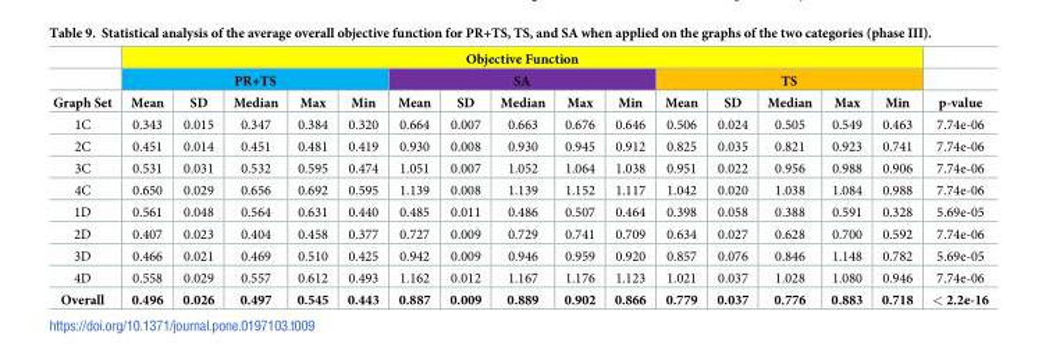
<table><thead><tr><td rowspan="3">Graph Set</td><td colspan="15">Objective Function</td><td rowspan="3">p-value</td></tr><tr><td colspan="5">PR+TS</td><td colspan="5">SA</td><td colspan="5">TS</td></tr><tr><td>Mean</td><td>SD</td><td>Median</td><td>Max</td><td>Min</td><td>Mean</td><td>SD</td><td>Median</td><td>Max</td><td>Min</td><td>Mean</td><td>SD</td><td>Median</td><td>Max</td><td>Min</td></tr></thead><tbody><tr><td>1C</td><td>0.343</td><td>0.015</td><td>0.347</td><td>0.384</td><td>0.320</td><td>0.664</td><td>0.007</td><td>0.663</td><td>0.676</td><td>0.646</td><td>0.506</td><td>0.024</td><td>0.505</td><td>0.549</td><td>0.463</td><td>7.74e-06</td></tr><tr><td>2C</td><td>0.451</td><td>0.014</td><td>0.451</td><td>0.481</td><td>0.419</td><td>0.930</td><td>0.008</td><td>0.930</td><td>0.945</td><td>0.912</td><td>0.825</td><td>0.035</td><td>0.821</td><td>0.923</td><td>0.741</td><td>7.74e-06</td></tr><tr><td>3C</td><td>0.531</td><td>0.031</td><td>0.532</td><td>0.595</td><td>0.474</td><td>1.051</td><td>0.007</td><td>1.052</td><td>1.064</td><td>1.038</td><td>0.951</td><td>0.022</td><td>0.956</td><td>0.988</td><td>0.906</td><td>7.74e-06</td></tr><tr><td>4C</td><td>0.650</td><td>0.029</td><td>0.656</td><td>0.692</td><td>0.595</td><td>1.139</td><td>0.008</td><td>1.139</td><td>1.152</td><td>1.117</td><td>1.042</td><td>0.020</td><td>1.038</td><td>1.084</td><td>0.988</td><td>7.74e-06</td></tr><tr><td>1D</td><td>0.561</td><td>0.048</td><td>0.564</td><td>0.631</td><td>0.440</td><td>0.485</td><td>0.011</td><td>0.486</td><td>0.507</td><td>0.464</td><td>0.398</td><td>0.058</td><td>0.388</td><td>0.591</td><td>0.328</td><td>5.69e-05</td></tr><tr><td>2D</td><td>0.407</td><td>0.023</td><td>0.404</td><td>0.458</td><td>0.377</td><td>0.727</td><td>0.009</td><td>0.729</td><td>0.741</td><td>0.709</td><td>0.634</td><td>0.027</td><td>0.628</td><td>0.700</td><td>0.592</td><td>7.74e-06</td></tr><tr><td>3D</td><td>0.466</td><td>0.021</td><td>0.469</td><td>0.510</td><td>0.425</td><td>0.942</td><td>0.009</td><td>0.946</td><td>0.959</td><td>0.920</td><td>0.857</td><td>0.076</td><td>0.846</td><td>1.148</td><td>0.782</td><td>5.69e-05</td></tr><tr><td>4D</td><td>0.558</td><td>0.029</td><td>0.557</td><td>0.612</td><td>0.493</td><td>1.162</td><td>0.012</td><td>1.167</td><td>1.176</td><td>1.123</td><td>1.021</td><td>0.037</td><td>1.028</td><td>1.080</td><td>0.946</td><td>7.74e-06</td></tr><tr><td>Overall</td><td>0.496</td><td>0.026</td><td>0.497</td><td>0.545</td><td>0.443</td><td>0.887</td><td>0.009</td><td>0.889</td><td>0.902</td><td>0.866</td><td>0.779</td><td>0.037</td><td>0.776</td><td>0.883</td><td>0.718</td><td>&lt; 2.2e-16</td></tr></tbody></table>